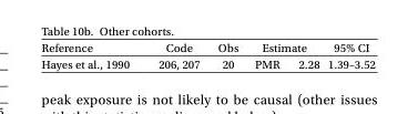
<table><thead><tr><td rowspan="2">Reference Hayes et al., 1990</td><td rowspan="2">Code 206, 207</td><td rowspan="2">Obs 20</td><td colspan="2">Estimate</td><td rowspan="2">95% CI 1.39–3.52</td></tr><tr><td>PMR</td><td>2.28</td></tr></thead><tbody></tbody></table>